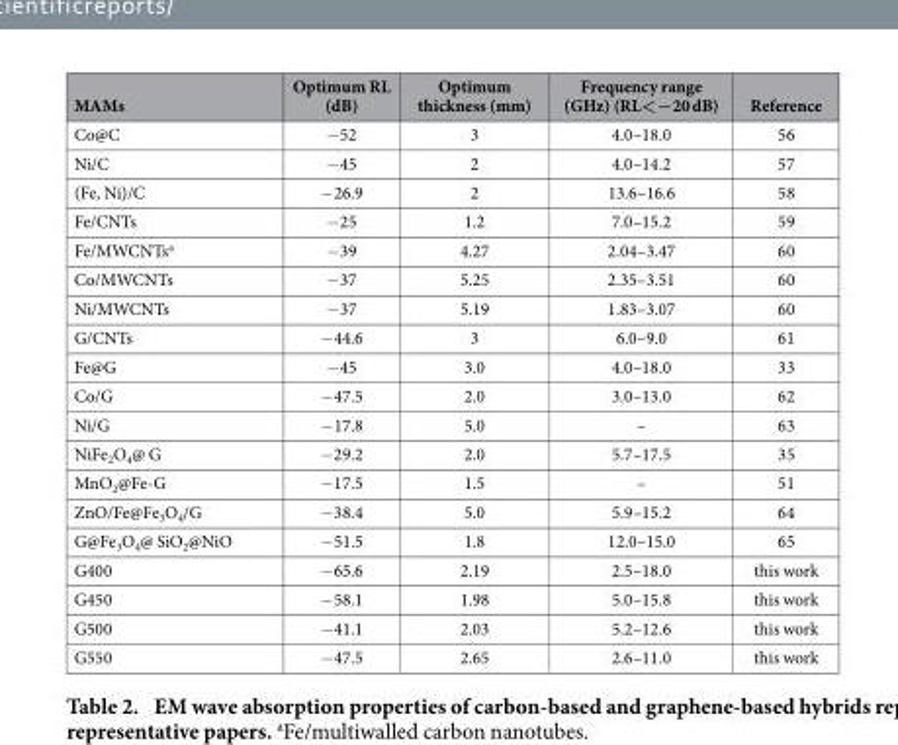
<table><thead><tr><td>MAMs</td><td>Optimum RL (dB)</td><td>Optimum thickness (mm)</td><td>Frequency range (GHz) (RL&lt;−20 dB)</td><td>Reference</td></tr></thead><tbody><tr><td>Co@C</td><td>− 52</td><td>3</td><td>4.0–18.0</td><td>56</td></tr><tr><td>Ni/C</td><td>− 45</td><td>2</td><td>4.0–14.2</td><td>57</td></tr><tr><td>(Fe, Ni)/C</td><td>− 26.9</td><td>2</td><td>13.6–16.6</td><td>58</td></tr><tr><td>Fe/CNTs</td><td>− 25</td><td>1.2</td><td>7.0–15.2</td><td>59</td></tr><tr><td>Fe/MWCNTs<sup>a</sup></td><td>− 39</td><td>4.27</td><td>2.04–3.47</td><td>60</td></tr><tr><td>Co/MWCNTs</td><td>− 37</td><td>5.25</td><td>2.35–3.51</td><td>60</td></tr><tr><td>Ni/MWCNTs</td><td>− 37</td><td>5.19</td><td>1.83–3.07</td><td>60</td></tr><tr><td>G/CNTs</td><td>− 44.6</td><td>3</td><td>6.0–9.0</td><td>61</td></tr><tr><td>Fe@G</td><td>− 45</td><td>3.0</td><td>4.0–18.0</td><td>33</td></tr><tr><td>Co/G</td><td>− 47.5</td><td>2.0</td><td>3.0–13.0</td><td>62</td></tr><tr><td>Ni/G</td><td>− 17.8</td><td>5.0</td><td>–</td><td>63</td></tr><tr><td>NiFe<sub>2</sub>O<sub>4</sub>@ G</td><td>− 29.2</td><td>2.0</td><td>5.7–17.5</td><td>35</td></tr><tr><td>MnO<sub>2</sub>@Fe-G</td><td>− 17.5</td><td>1.5</td><td>–</td><td>51</td></tr><tr><td>ZnO/Fe@Fe<sub>3</sub>O<sub>4</sub>/G</td><td>− 38.4</td><td>5.0</td><td>5.9–15.2</td><td>64</td></tr><tr><td>G@Fe<sub>3</sub>O<sub>4</sub>@ SiO<sub>2</sub>@NiO</td><td>− 51.5</td><td>1.8</td><td>12.0–15.0</td><td>65</td></tr><tr><td>G400</td><td>− 65.6</td><td>2.19</td><td>2.5–18.0</td><td>this work</td></tr><tr><td>G450</td><td>− 58.1</td><td>1.98</td><td>5.0–15.8</td><td>this work</td></tr><tr><td>G500</td><td>− 41.1</td><td>2.03</td><td>5.2–12.6</td><td>this work</td></tr><tr><td>G550</td><td>− 47.5</td><td>2.65</td><td>2.6–11.0</td><td>this work</td></tr></tbody></table>